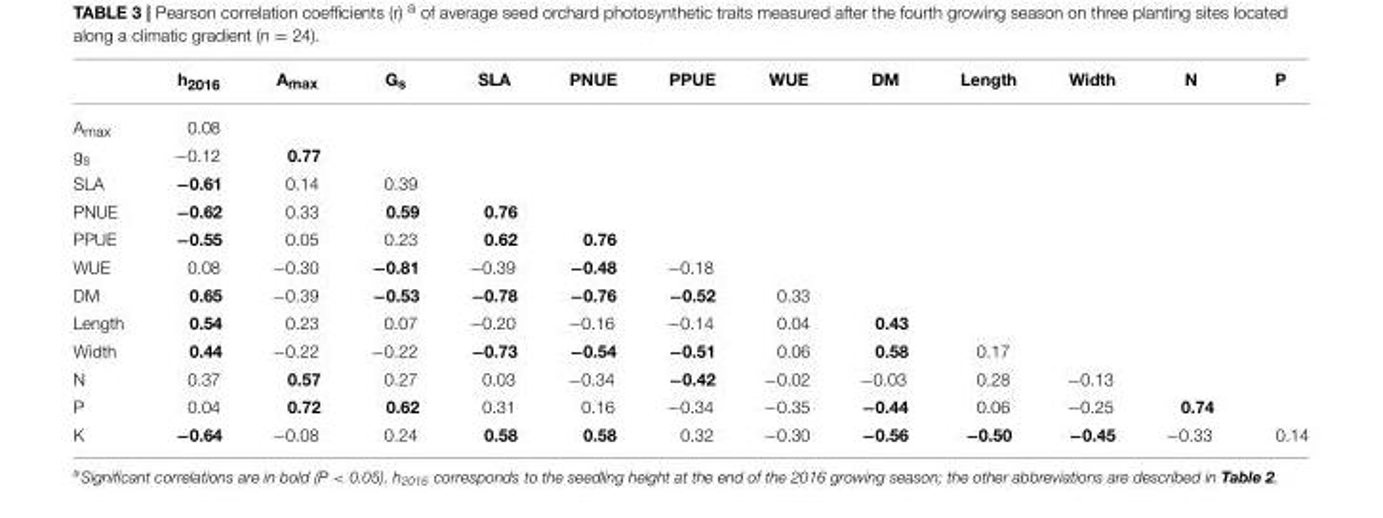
<table><thead><tr><td></td><td>h<sub>2016</sub></td><td>A<sub>max</sub></td><td>G<sub>s</sub></td><td>SLA</td><td>PNUE</td><td>PPUE</td><td>WUE</td><td>DM</td><td>Length</td><td>Width</td><td>N</td><td>P</td></tr></thead><tbody><tr><td>A<sub>max</sub></td><td>0.08</td><td></td><td></td><td></td><td></td><td></td><td></td><td></td><td></td><td></td><td></td><td></td></tr><tr><td>g<sub>s</sub></td><td>−0.12</td><td>0.77</td><td></td><td></td><td></td><td></td><td></td><td></td><td></td><td></td><td></td><td></td></tr><tr><td>SLA</td><td>−0.61</td><td>0.14</td><td>0.39</td><td></td><td></td><td></td><td></td><td></td><td></td><td></td><td></td><td></td></tr><tr><td>PNUE</td><td>−0.62</td><td>0.33</td><td>0.59</td><td>0.76</td><td></td><td></td><td></td><td></td><td></td><td></td><td></td><td></td></tr><tr><td>PPUE</td><td>−0.55</td><td>0.05</td><td>0.23</td><td>0.62</td><td>0.76</td><td></td><td></td><td></td><td></td><td></td><td></td><td></td></tr><tr><td>WUE</td><td>0.08</td><td>−0.30</td><td>−0.81</td><td>−0.39</td><td>−0.48</td><td>−0.18</td><td></td><td></td><td></td><td></td><td></td><td></td></tr><tr><td>DM</td><td>0.65</td><td>−0.39</td><td>−0.53</td><td>−0.78</td><td>−0.76</td><td>−0.52</td><td>0.33</td><td></td><td></td><td></td><td></td><td></td></tr><tr><td>Length</td><td>0.54</td><td>0.23</td><td>0.07</td><td>−0.20</td><td>−0.16</td><td>−0.14</td><td>0.04</td><td>0.43</td><td></td><td></td><td></td><td></td></tr><tr><td>Width</td><td>0.44</td><td>−0.22</td><td>−0.22</td><td>−0.73</td><td>−0.54</td><td>−0.51</td><td>0.06</td><td>0.58</td><td>0.17</td><td></td><td></td><td></td></tr><tr><td>N</td><td>0.37</td><td>0.57</td><td>0.27</td><td>0.03</td><td>−0.34</td><td>−0.42</td><td>−0.02</td><td>−0.03</td><td>0.28</td><td>−0.13</td><td></td><td></td></tr><tr><td>P</td><td>0.04</td><td>0.72</td><td>0.62</td><td>0.31</td><td>0.16</td><td>−0.34</td><td>−0.35</td><td>−0.44</td><td>0.06</td><td>−0.25</td><td>0.74</td><td></td></tr><tr><td>K</td><td>−0.64</td><td>−0.08</td><td>0.24</td><td>0.58</td><td>0.58</td><td>0.32</td><td>−0.30</td><td>−0.56</td><td>−0.50</td><td>−0.45</td><td>−0.33</td><td>0.14</td></tr></tbody></table>